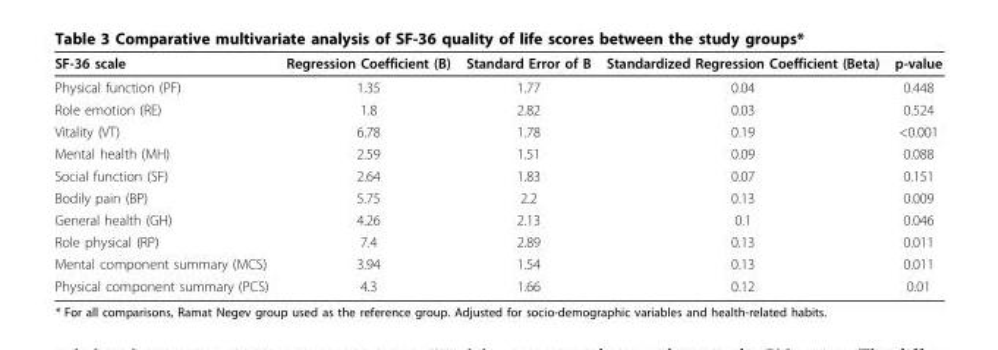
<table><thead><tr><td>SF-36 scale</td><td>Regression Coefficient (B)</td><td>Standard Error of B</td><td>Standardized Regression Coefficient (Beta)</td><td>p-value</td></tr></thead><tbody><tr><td>Physical function (PF)</td><td>1.35</td><td>1.77</td><td>0.04</td><td>0.448</td></tr><tr><td>Role emotion (RE)</td><td>1.8</td><td>2.82</td><td>0.03</td><td>0.524</td></tr><tr><td>Vitality (VT)</td><td>6.78</td><td>1.78</td><td>0.19</td><td>&lt;0.001</td></tr><tr><td>Mental health (MH)</td><td>2.59</td><td>1.51</td><td>0.09</td><td>0.088</td></tr><tr><td>Social function (SF)</td><td>2.64</td><td>1.83</td><td>0.07</td><td>0.151</td></tr><tr><td>Bodily pain (BP)</td><td>5.75</td><td>2.2</td><td>0.13</td><td>0.009</td></tr><tr><td>General health (GH)</td><td>4.26</td><td>2.13</td><td>0.1</td><td>0.046</td></tr><tr><td>Role physical (RP)</td><td>7.4</td><td>2.89</td><td>0.13</td><td>0.011</td></tr><tr><td>Mental component summary (MCS)</td><td>3.94</td><td>1.54</td><td>0.13</td><td>0.011</td></tr><tr><td>Physical component summary (PCS)</td><td>4.3</td><td>1.66</td><td>0.12</td><td>0.01</td></tr></tbody></table>